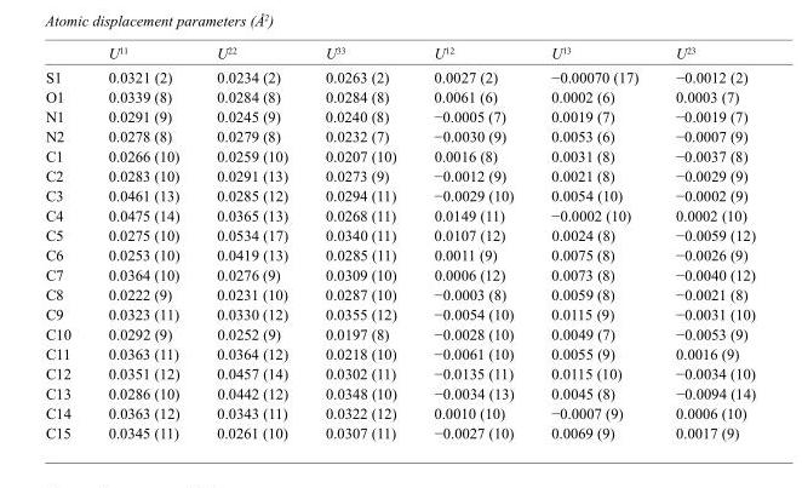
<table><thead><tr><td></td><td>U<sup>11</sup></td><td>U<sup>22</sup></td><td>U<sup>33</sup></td><td>U<sup>12</sup></td><td>U<sup>13</sup></td><td>U<sup>23</sup></td></tr></thead><tbody><tr><td>S1</td><td>0.0321 (2)</td><td>0.0234 (2)</td><td>0.0263 (2)</td><td>0.0027 (2)</td><td>−0.00070 (17)</td><td>−0.0012 (2)</td></tr><tr><td>O1</td><td>0.0339 (8)</td><td>0.0284 (8)</td><td>0.0284 (8)</td><td>0.0061 (6)</td><td>0.0002 (6)</td><td>0.0003 (7)</td></tr><tr><td>N1</td><td>0.0291 (9)</td><td>0.0245 (9)</td><td>0.0240 (8)</td><td>−0.0005 (7)</td><td>0.0019 (7)</td><td>−0.0019 (7)</td></tr><tr><td>N2</td><td>0.0278 (8)</td><td>0.0279 (8)</td><td>0.0232 (7)</td><td>−0.0030 (9)</td><td>0.0053 (6)</td><td>−0.0007 (9)</td></tr><tr><td>C1</td><td>0.0266 (10)</td><td>0.0259 (10)</td><td>0.0207 (10)</td><td>0.0016 (8)</td><td>0.0031 (8)</td><td>−0.0037 (8)</td></tr><tr><td>C2</td><td>0.0283 (10)</td><td>0.0291 (13)</td><td>0.0273 (9)</td><td>−0.0012 (9)</td><td>0.0021 (8)</td><td>−0.0029 (9)</td></tr><tr><td>C3</td><td>0.0461 (13)</td><td>0.0285 (12)</td><td>0.0294 (11)</td><td>−0.0029 (10)</td><td>0.0054 (10)</td><td>−0.0002 (9)</td></tr><tr><td>C4</td><td>0.0475 (14)</td><td>0.0365 (13)</td><td>0.0268 (11)</td><td>0.0149 (11)</td><td>−0.0002 (10)</td><td>0.0002 (10)</td></tr><tr><td>C5</td><td>0.0275 (10)</td><td>0.0534 (17)</td><td>0.0340 (11)</td><td>0.0107 (12)</td><td>0.0024 (8)</td><td>−0.0059 (12)</td></tr><tr><td>C6</td><td>0.0253 (10)</td><td>0.0419 (13)</td><td>0.0285 (11)</td><td>0.0011 (9)</td><td>0.0075 (8)</td><td>−0.0026 (9)</td></tr><tr><td>C7</td><td>0.0364 (10)</td><td>0.0276 (9)</td><td>0.0309 (10)</td><td>0.0006 (12)</td><td>0.0073 (8)</td><td>−0.0040 (12)</td></tr><tr><td>C8</td><td>0.0222 (9)</td><td>0.0231 (10)</td><td>0.0287 (10)</td><td>−0.0003 (8)</td><td>0.0059 (8)</td><td>−0.0021 (8)</td></tr><tr><td>C9</td><td>0.0323 (11)</td><td>0.0330 (12)</td><td>0.0355 (12)</td><td>−0.0054 (10)</td><td>0.0115 (9)</td><td>−0.0031 (10)</td></tr><tr><td>C10</td><td>0.0292 (9)</td><td>0.0252 (9)</td><td>0.0197 (8)</td><td>−0.0028 (10)</td><td>0.0049 (7)</td><td>−0.0053 (9)</td></tr><tr><td>C11</td><td>0.0363 (11)</td><td>0.0364 (12)</td><td>0.0218 (10)</td><td>−0.0061 (10)</td><td>0.0055 (9)</td><td>0.0016 (9)</td></tr><tr><td>C12</td><td>0.0351 (12)</td><td>0.0457 (14)</td><td>0.0302 (11)</td><td>−0.0135 (11)</td><td>0.0115 (10)</td><td>−0.0034 (10)</td></tr><tr><td>C13</td><td>0.0286 (10)</td><td>0.0442 (12)</td><td>0.0348 (10)</td><td>−0.0034 (13)</td><td>0.0045 (8)</td><td>−0.0094 (14)</td></tr><tr><td>C14</td><td>0.0363 (12)</td><td>0.0343 (11)</td><td>0.0322 (12)</td><td>0.0010 (10)</td><td>−0.0007 (9)</td><td>0.0006 (10)</td></tr><tr><td>C15</td><td>0.0345 (11)</td><td>0.0261 (10)</td><td>0.0307 (11)</td><td>−0.0027 (10)</td><td>0.0069 (9)</td><td>0.0017 (9)</td></tr></tbody></table>